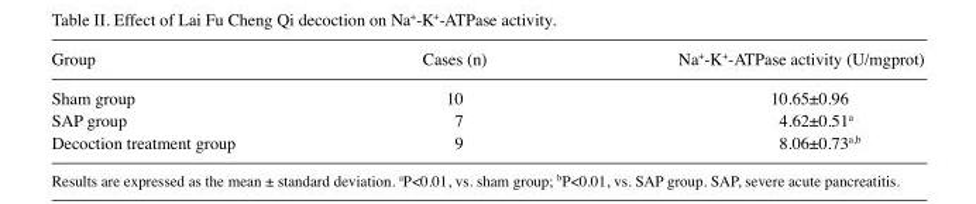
<table><thead><tr><td>Group</td><td>Cases (n)</td><td>Na<sup>+</sup>-K<sup>+</sup>-ATPase activity (U/mgprot)</td></tr></thead><tbody><tr><td>Sham group</td><td>10</td><td>10.65±0.96</td></tr><tr><td>SAP group</td><td>7</td><td>4.62±0.51<sup>a</sup></td></tr><tr><td>Decoction treatment group</td><td>9</td><td>8.06±0.73<sup>a</sup>,<sup>b</sup></td></tr></tbody></table>